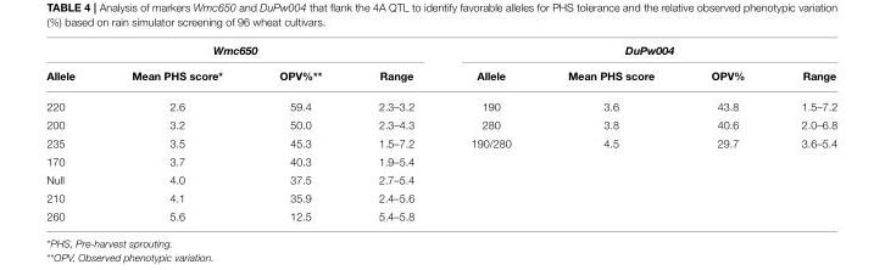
<table><thead><tr><td colspan="4">Wmc650</td><td colspan="4">DuPw004</td></tr><tr><td>Allele</td><td>Mean PHS score*</td><td>OPV%**</td><td>Range</td><td>Allele</td><td>Mean PHS score</td><td>OPV%</td><td>Range</td></tr></thead><tbody><tr><td>220</td><td>2.6</td><td>59.4</td><td>2.3–3.2</td><td>190</td><td>3.6</td><td>43.8</td><td>1.5–7.2</td></tr><tr><td>200</td><td>3.2</td><td>50.0</td><td>2.3–4.3</td><td>280</td><td>3.8</td><td>40.6</td><td>2.0–6.8</td></tr><tr><td>235</td><td>3.5</td><td>45.3</td><td>1.5–7.2</td><td>190/280</td><td>4.5</td><td>29.7</td><td>3.6–5.4</td></tr><tr><td>170</td><td>3.7</td><td>40.3</td><td>1.9–5.4</td><td></td><td></td><td></td><td></td></tr><tr><td>Null</td><td>4.0</td><td>37.5</td><td>2.7–5.4</td><td></td><td></td><td></td><td></td></tr><tr><td>210</td><td>4.1</td><td>35.9</td><td>2.4–5.6</td><td></td><td></td><td></td><td></td></tr><tr><td>260</td><td>5.6</td><td>12.5</td><td>5.4–5.8</td><td></td><td></td><td></td><td></td></tr></tbody></table>